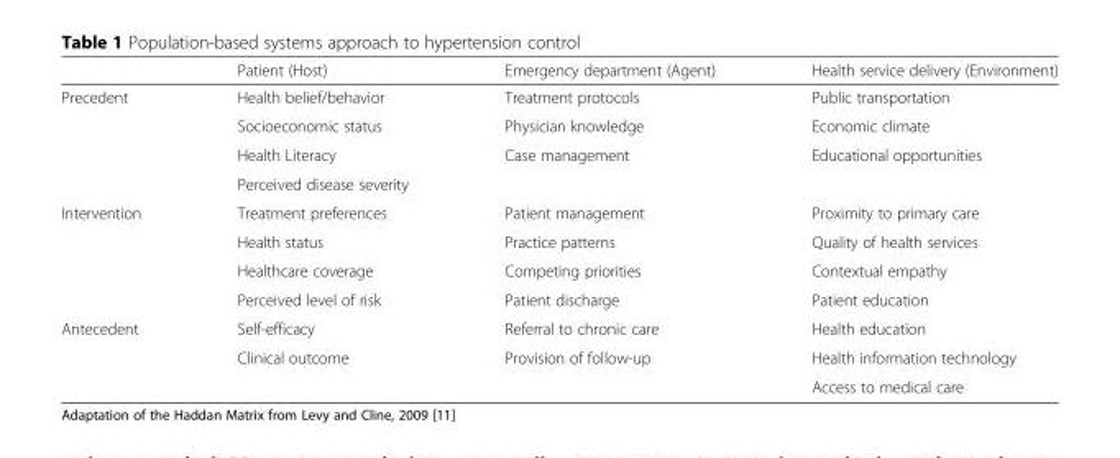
<table><thead><tr><td></td><td>Patient (Host)</td><td>Emergency department (Agent)</td><td>Health service delivery (Environment)</td></tr></thead><tbody><tr><td rowspan="4">Precedent</td><td>Health belief/behavior</td><td>Treatment protocols</td><td>Public transportation</td></tr><tr><td>Socioeconomic status</td><td>Physician knowledge</td><td>Economic climate</td></tr><tr><td>Health Literacy</td><td rowspan="2">Case management</td><td rowspan="2">Educational opportunities</td></tr><tr><td>Perceived disease severity</td></tr><tr><td rowspan="4">Intervention</td><td>Treatment preferences</td><td>Patient management</td><td>Proximity to primary care</td></tr><tr><td>Health status</td><td>Practice patterns</td><td>Quality of health services</td></tr><tr><td>Healthcare coverage</td><td>Competing priorities</td><td>Contextual empathy</td></tr><tr><td>Perceived level of risk</td><td>Patient discharge</td><td>Patient education</td></tr><tr><td rowspan="3">Antecedent</td><td>Self-efficacy</td><td>Referral to chronic care</td><td>Health education</td></tr><tr><td rowspan="2">Clinical outcome</td><td rowspan="2">Provision of follow-up</td><td>Health information technology</td></tr><tr><td>Access to medical care</td></tr></tbody></table>